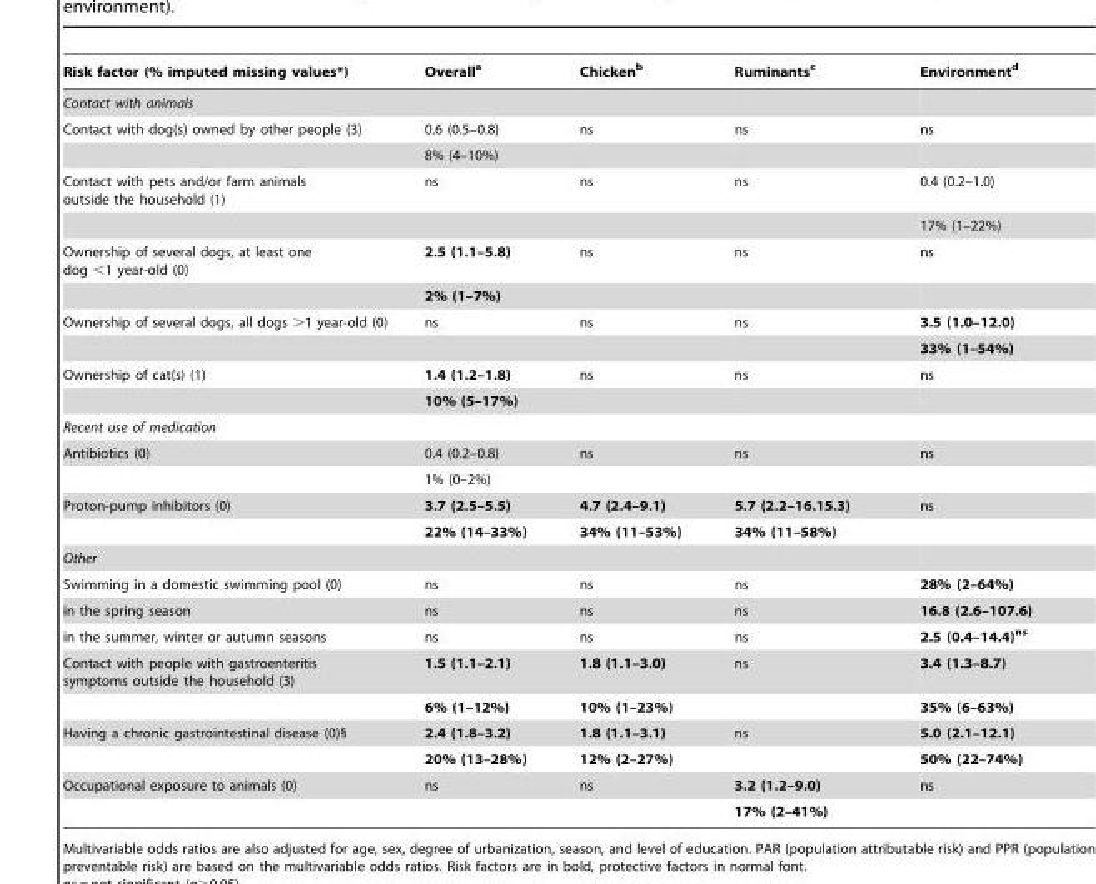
<table><thead><tr><td>Risk factor (% imputed missing values*)</td><td>Overall<sup>a</sup></td><td>Chicken<sup>b</sup></td><td>Ruminants<sup>c</sup></td><td>Environment<sup>d</sup></td></tr></thead><tbody><tr><td colspan="5">Contact with animals</td></tr><tr><td rowspan="2">Contact with dog(s) owned by other people (3)</td><td>0.6 (0.5–0.8)</td><td>ns</td><td>ns</td><td>ns</td></tr><tr><td>8% (4–10%)</td><td></td><td></td><td></td></tr><tr><td rowspan="2">Contact with pets and/or farm animals outside the household (1)</td><td>ns</td><td>ns</td><td>ns</td><td>0.4 (0.2–1.0)</td></tr><tr><td></td><td></td><td></td><td>17% (1–22%)</td></tr><tr><td rowspan="2">Ownership of several dogs, at least one dog &lt;1 year-old (0)</td><td>2.5 (1.1–5.8)</td><td>ns</td><td>ns</td><td>ns</td></tr><tr><td>2% (1–7%)</td><td></td><td></td><td></td></tr><tr><td rowspan="2">Ownership of several dogs, all dogs &gt;1 year-old (0)</td><td>ns</td><td>ns</td><td>ns</td><td>3.5 (1.0–12.0)</td></tr><tr><td></td><td></td><td></td><td>33% (1–54%)</td></tr><tr><td rowspan="2">Ownership of cat(s) (1)</td><td>1.4 (1.2–1.8)</td><td>ns</td><td>ns</td><td>ns</td></tr><tr><td>10% (5–17%)</td><td></td><td></td><td></td></tr><tr><td colspan="5">Recent use of medication</td></tr><tr><td rowspan="2">Antibiotics (0)</td><td>0.4 (0.2–0.8)</td><td>ns</td><td>ns</td><td>ns</td></tr><tr><td>1% (0–2%)</td><td></td><td></td><td></td></tr><tr><td rowspan="2">Proton-pump inhibitors (0)</td><td>3.7 (2.5–5.5)</td><td>4.7 (2.4–9.1)</td><td>5.7 (2.2–16.15.3)</td><td>ns</td></tr><tr><td>22% (14–33%)</td><td>34% (11–53%)</td><td>34% (11–58%)</td><td></td></tr><tr><td colspan="5">Other</td></tr><tr><td>Swimming in a domestic swimming pool (0)</td><td>ns</td><td>ns</td><td>ns</td><td>28% (2–64%)</td></tr><tr><td>in the spring season</td><td>ns</td><td>ns</td><td>ns</td><td>16.8 (2.6–107.6)</td></tr><tr><td>in the summer, winter or autumn seasons</td><td>ns</td><td>ns</td><td>ns</td><td>2.5 (0.4–14.4)<sup>ns</sup></td></tr><tr><td rowspan="2">Contact with people with gastroenteritis symptoms outside the household (3)</td><td>1.5 (1.1–2.1)</td><td>1.8 (1.1–3.0)</td><td>ns</td><td>3.4 (1.3–8.7)</td></tr><tr><td>6% (1–12%)</td><td>10% (1–23%)</td><td></td><td>35% (6–63%)</td></tr><tr><td rowspan="2">Having a chronic gastrointestinal disease (0)§</td><td>2.4 (1.8–3.2)</td><td>1.8 (1.1–3.1)</td><td>ns</td><td>5.0 (2.1–12.1)</td></tr><tr><td>20% (13–28%)</td><td>12% (2–27%)</td><td></td><td>50% (22–74%)</td></tr><tr><td rowspan="2">Occupational exposure to animals (0)</td><td>ns</td><td>ns</td><td>3.2 (1.2–9.0)</td><td>ns</td></tr><tr><td></td><td></td><td>17% (2–41%)</td><td></td></tr></tbody></table>